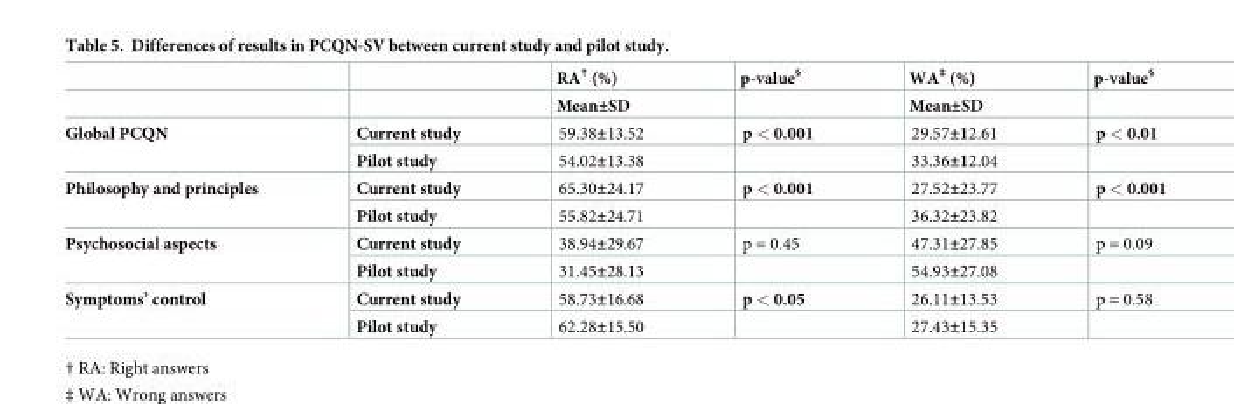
<table><thead><tr><td rowspan="2"></td><td rowspan="2"></td><td rowspan="2">RA<sup>†</sup> (%) Mean±SD</td><td rowspan="2">p-value<sup>§</sup></td><td rowspan="2">WA<sup>‡</sup> (%) Mean±SD</td><td rowspan="2">p-value<sup>§</sup></td></tr><tr></tr></thead><tbody><tr><td rowspan="2">Global PCQN</td><td>Current study</td><td>59.38±13.52</td><td>p &lt; 0.001</td><td>29.57±12.61</td><td>p &lt; 0.01</td></tr><tr><td>Pilot study</td><td>54.02±13.38</td><td></td><td>33.36±12.04</td><td></td></tr><tr><td rowspan="2">Philosophy and principles</td><td>Current study</td><td>65.30±24.17</td><td>p &lt; 0.001</td><td>27.52±23.77</td><td>p &lt; 0.001</td></tr><tr><td>Pilot study</td><td>55.82±24.71</td><td></td><td>36.32±23.82</td><td></td></tr><tr><td rowspan="2">Psychosocial aspects</td><td>Current study</td><td>38.94±29.67</td><td>p = 0.45</td><td>47.31±27.85</td><td>p = 0.09</td></tr><tr><td>Pilot study</td><td>31.45±28.13</td><td></td><td>54.93±27.08</td><td></td></tr><tr><td rowspan="2">Symptoms’ control</td><td>Current study</td><td>58.73±16.68</td><td>p &lt; 0.05</td><td>26.11±13.53</td><td>p = 0.58</td></tr><tr><td>Pilot study</td><td>62.28±15.50</td><td></td><td>27.43±15.35</td><td></td></tr></tbody></table>